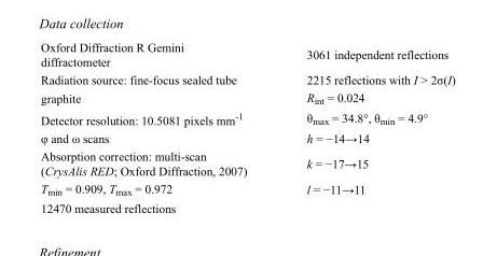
<table><tbody><tr><td>Oxford Diffraction R Gemini diffractometer</td><td>3061 independent reflections</td></tr><tr><td>Radiation source: fine-focus sealed tube</td><td>2215 reflections with I &gt; 2σ(I)</td></tr><tr><td>graphite</td><td>R<sub>int</sub> = 0.024</td></tr><tr><td>Detector resolution: 10.5081 pixels mm<sup>-1</sup></td><td>θ<sub>max</sub> = 34.8°, θ<sub>min</sub> = 4.9°</td></tr><tr><td>φ and ω scans</td><td>h = −14→14</td></tr><tr><td>Absorption correction: multi-scan (CrysAlis RED; Oxford Diffraction, 2007)</td><td>k = −17→15</td></tr><tr><td>T<sub>min</sub> = 0.909, T<sub>max</sub> = 0.972</td><td>l = −11→11</td></tr><tr><td>12470 measured reflections</td><td></td></tr></tbody></table>